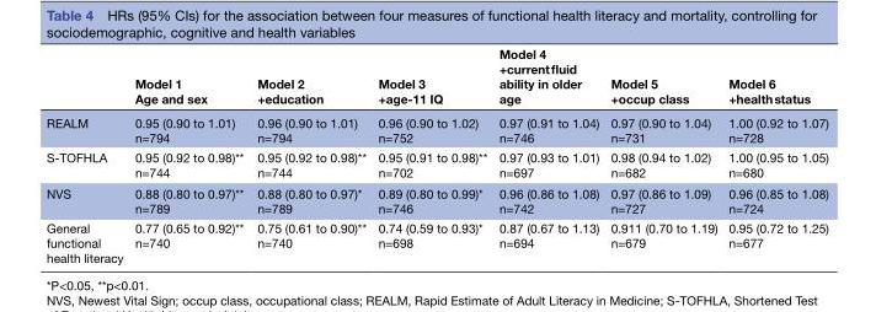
<table><thead><tr><td></td><td>Model 1 Age and sex</td><td>Model 2 +education</td><td>Model 3 +age-11 IQ</td><td>Model 4 +current fluid ability in older age</td><td>Model 5 +occup class</td><td>Model 6 +health status</td></tr></thead><tbody><tr><td>REALM</td><td>0.95 (0.90 to 1.01) n=794</td><td>0.96 (0.90 to 1.01) n=794</td><td>0.96 (0.90 to 1.02) n=752</td><td>0.97 (0.91 to 1.04) n=746</td><td>0.97 (0.90 to 1.04) n=731</td><td>1.00 (0.92 to 1.07) n=728</td></tr><tr><td>S-TOFHLA</td><td>0.95 (0.92 to 0.98)** n=744</td><td>0.95 (0.92 to 0.98)** n=744</td><td>0.95 (0.91 to 0.98)** n=702</td><td>0.97 (0.93 to 1.01) n=697</td><td>0.98 (0.94 to 1.02) n=682</td><td>1.00 (0.95 to 1.05) n=680</td></tr><tr><td>NVS</td><td>0.88 (0.80 to 0.97)** n=789</td><td>0.88 (0.80 to 0.97)* n=789</td><td>0.89 (0.80 to 0.99)* n=746</td><td>0.96 (0.86 to 1.08) n=742</td><td>0.97 (0.86 to 1.09) n=727</td><td>0.96 (0.85 to 1.08) n=724</td></tr><tr><td>General functional health literacy</td><td>0.77 (0.65 to 0.92)** n=740</td><td>0.75 (0.61 to 0.90)** n=740</td><td>0.74 (0.59 to 0.93)* n=698</td><td>0.87 (0.67 to 1.13) n=694</td><td>0.911 (0.70 to 1.19) n=679</td><td>0.95 (0.72 to 1.25) n=677</td></tr></tbody></table>